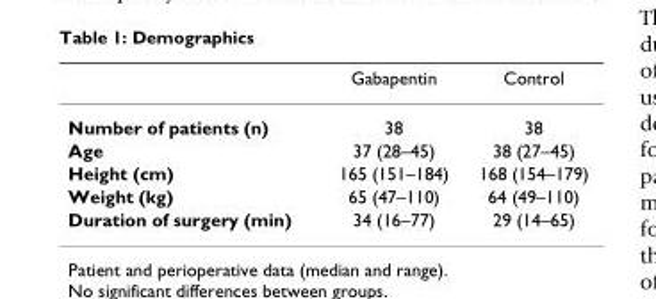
<table><thead><tr><td></td><td>Gabapentin</td><td>Control</td></tr></thead><tbody><tr><td>Number of patients (n)</td><td>38</td><td>38</td></tr><tr><td>Age</td><td>37 (28–45)</td><td>38 (27–45)</td></tr><tr><td>Height (cm)</td><td>165 (151–184)</td><td>168 (154–179)</td></tr><tr><td>Weight (kg)</td><td>65 (47–110)</td><td>64 (49–110)</td></tr><tr><td>Duration of surgery (min)</td><td>34 (16–77)</td><td>29 (14–65)</td></tr></tbody></table>